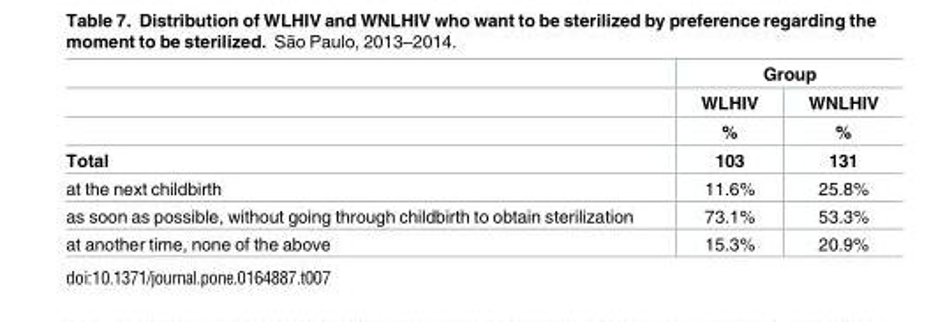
<table><thead><tr><td rowspan="3"></td><td colspan="2">Group</td></tr><tr><td rowspan="2">WLHIV %</td><td rowspan="2">WNLHIV %</td></tr><tr></tr></thead><tbody><tr><td>Total</td><td>103</td><td>131</td></tr><tr><td>at the next childbirth</td><td>11.6%</td><td>25.8%</td></tr><tr><td>as soon as possible, without going through childbirth to obtain sterilization</td><td>73.1%</td><td>53.3%</td></tr><tr><td>at another time, none of the above</td><td>15.3%</td><td>20.9%</td></tr></tbody></table>